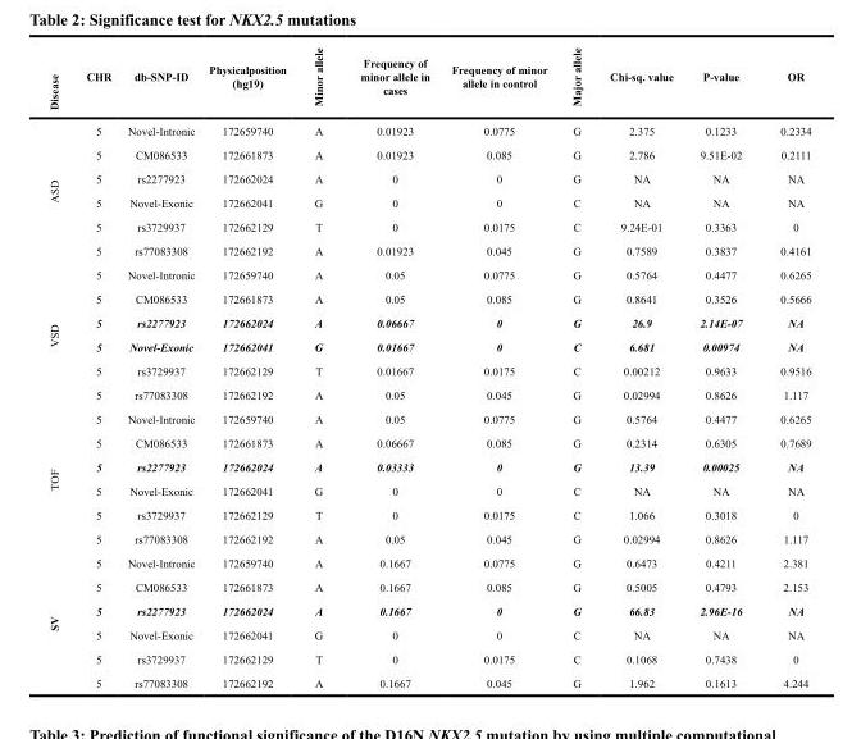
<table><thead><tr><td>Disease</td><td>CHR</td><td>db-SNP-ID</td><td>Physicalposition (hg19)</td><td>Minor allele</td><td>Frequency of minor allele in cases</td><td>Frequency of minor allele in control</td><td>Major allele</td><td>Chi-sq. value</td><td>P-value</td><td>OR</td></tr></thead><tbody><tr><td rowspan="6">ASD</td><td>5</td><td>Novel-Intronic</td><td>172659740</td><td>A</td><td>0.01923</td><td>0.0775</td><td>G</td><td>2.375</td><td>0.1233</td><td>0.2334</td></tr><tr><td>5</td><td>CM086533</td><td>172661873</td><td>A</td><td>0.01923</td><td>0.085</td><td>G</td><td>2.786</td><td>9.51E-02</td><td>0.2111</td></tr><tr><td>5</td><td>rs2277923</td><td>172662024</td><td>A</td><td>0</td><td>0</td><td>G</td><td>NA</td><td>NA</td><td>NA</td></tr><tr><td>5</td><td>Novel-Exonic</td><td>172662041</td><td>G</td><td>0</td><td>0</td><td>C</td><td>NA</td><td>NA</td><td>NA</td></tr><tr><td>5</td><td>rs3729937</td><td>172662129</td><td>T</td><td>0</td><td>0.0175</td><td>C</td><td>9.24E-01</td><td>0.3363</td><td>0</td></tr><tr><td>5</td><td>rs77083308</td><td>172662192</td><td>A</td><td>0.01923</td><td>0.045</td><td>G</td><td>0.7589</td><td>0.3837</td><td>0.4161</td></tr><tr><td rowspan="6">VSD</td><td>5</td><td>Novel-Intronic</td><td>172659740</td><td>A</td><td>0.05</td><td>0.0775</td><td>G</td><td>0.5764</td><td>0.4477</td><td>0.6265</td></tr><tr><td>5</td><td>CM086533</td><td>172661873</td><td>A</td><td>0.05</td><td>0.085</td><td>G</td><td>0.8641</td><td>0.3526</td><td>0.5666</td></tr><tr><td>5</td><td>rs2277923</td><td>172662024</td><td>A</td><td>0.06667</td><td>0</td><td>G</td><td>26.9</td><td>2.14E-07</td><td>NA</td></tr><tr><td>5</td><td>Novel-Exonic</td><td>172662041</td><td>G</td><td>0.01667</td><td>0</td><td>C</td><td>6.681</td><td>0.00974</td><td>NA</td></tr><tr><td>5</td><td>rs3729937</td><td>172662129</td><td>T</td><td>0.01667</td><td>0.0175</td><td>C</td><td>0.00212</td><td>0.9633</td><td>0.9516</td></tr><tr><td>5</td><td>rs77083308</td><td>172662192</td><td>A</td><td>0.05</td><td>0.045</td><td>G</td><td>0.02994</td><td>0.8626</td><td>1.117</td></tr><tr><td rowspan="6">TOF</td><td>5</td><td>Novel-Intronic</td><td>172659740</td><td>A</td><td>0.05</td><td>0.0775</td><td>G</td><td>0.5764</td><td>0.4477</td><td>0.6265</td></tr><tr><td>5</td><td>CM086533</td><td>172661873</td><td>A</td><td>0.06667</td><td>0.085</td><td>G</td><td>0.2314</td><td>0.6305</td><td>0.7689</td></tr><tr><td>5</td><td>rs2277923</td><td>172662024</td><td>A</td><td>0.03333</td><td>0</td><td>G</td><td>13.39</td><td>0.00025</td><td>NA</td></tr><tr><td>5</td><td>Novel-Exonic</td><td>172662041</td><td>G</td><td>0</td><td>0</td><td>C</td><td>NA</td><td>NA</td><td>NA</td></tr><tr><td>5</td><td>rs3729937</td><td>172662129</td><td>T</td><td>0</td><td>0.0175</td><td>C</td><td>1.066</td><td>0.3018</td><td>0</td></tr><tr><td>5</td><td>rs77083308</td><td>172662192</td><td>A</td><td>0.05</td><td>0.045</td><td>G</td><td>0.02994</td><td>0.8626</td><td>1.117</td></tr><tr><td rowspan="6">SV</td><td>5</td><td>Novel-Intronic</td><td>172659740</td><td>A</td><td>0.1667</td><td>0.0775</td><td>G</td><td>0.6473</td><td>0.4211</td><td>2.381</td></tr><tr><td>5</td><td>CM086533</td><td>172661873</td><td>A</td><td>0.1667</td><td>0.085</td><td>G</td><td>0.5005</td><td>0.4793</td><td>2.153</td></tr><tr><td>5</td><td>rs2277923</td><td>172662024</td><td>A</td><td>0.1667</td><td>0</td><td>G</td><td>66.83</td><td>2.96E-16</td><td>NA</td></tr><tr><td>5</td><td>Novel-Exonic</td><td>172662041</td><td>G</td><td>0</td><td>0</td><td>C</td><td>NA</td><td>NA</td><td>NA</td></tr><tr><td>5</td><td>rs3729937</td><td>172662129</td><td>T</td><td>0</td><td>0.0175</td><td>C</td><td>0.1068</td><td>0.7438</td><td>0</td></tr><tr><td>5</td><td>rs77083308</td><td>172662192</td><td>A</td><td>0.1667</td><td>0.045</td><td>G</td><td>1.962</td><td>0.1613</td><td>4.244</td></tr></tbody></table>